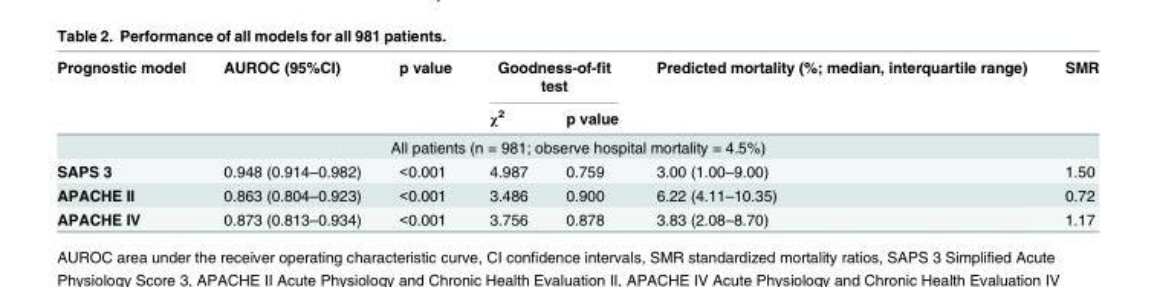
<table><thead><tr><td rowspan="2">Prognostic model</td><td rowspan="2">AUROC (95%CI)</td><td rowspan="2">p value</td><td colspan="2">Goodness-of-fit test</td><td rowspan="2">Predicted mortality (%; median, interquartile range)</td><td rowspan="2">SMR</td></tr><tr><td>χ<sup>2</sup></td><td>p value</td></tr></thead><tbody><tr><td colspan="7">All patients (n = 981; observe hospital mortality = 4.5%)</td></tr><tr><td>SAPS 3</td><td>0.948 (0.914–0.982)</td><td>&lt;0.001</td><td>4.987</td><td>0.759</td><td>3.00 (1.00–9.00)</td><td>1.50</td></tr><tr><td>APACHE II</td><td>0.863 (0.804–0.923)</td><td>&lt;0.001</td><td>3.486</td><td>0.900</td><td>6.22 (4.11–10.35)</td><td>0.72</td></tr><tr><td>APACHE IV</td><td>0.873 (0.813–0.934)</td><td>&lt;0.001</td><td>3.756</td><td>0.878</td><td>3.83 (2.08–8.70)</td><td>1.17</td></tr></tbody></table>